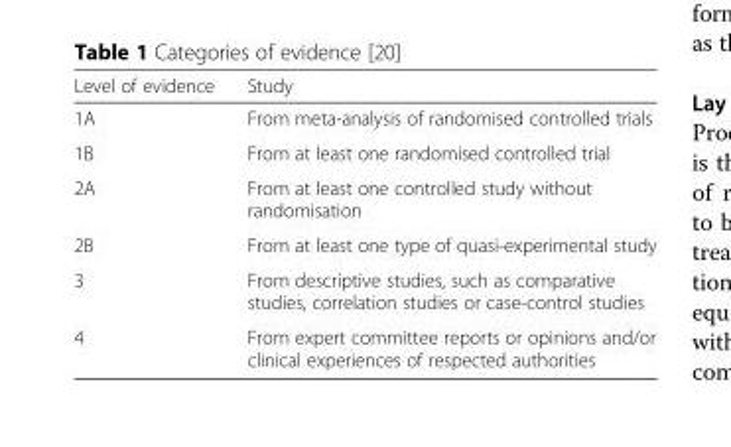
<table><thead><tr><td>Level of evidence</td><td>Study</td></tr></thead><tbody><tr><td>1A</td><td>From meta-analysis of randomised controlled trials</td></tr><tr><td>1B</td><td>From at least one randomised controlled trial</td></tr><tr><td>2A</td><td>From at least one controlled study without randomisation</td></tr><tr><td>2B</td><td>From at least one type of quasi-experimental study</td></tr><tr><td>3</td><td>From descriptive studies, such as comparative studies, correlation studies or case-control studies</td></tr><tr><td>4</td><td>From expert committee reports or opinions and/or clinical experiences of respected authorities</td></tr></tbody></table>